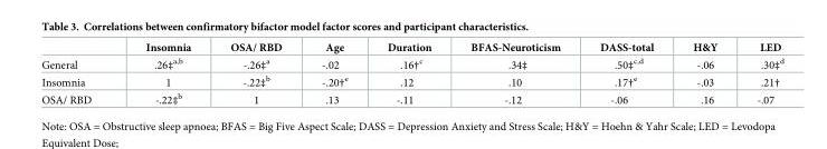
<table><thead><tr><td></td><td>Insomnia</td><td>OSA/ RBD</td><td>Age</td><td>Duration</td><td>BFAS-Neuroticism</td><td>DASS-total</td><td>H&amp;Y</td><td>LED</td></tr></thead><tbody><tr><td>General</td><td>.26‡<sup>a,b</sup></td><td>-.26‡<sup>a</sup></td><td>-.02</td><td>.16†<sup>c</sup></td><td>.34‡</td><td>.50‡<sup>c,d</sup></td><td>-.06</td><td>.30‡<sup>d</sup></td></tr><tr><td>Insomnia</td><td>1</td><td>-.22‡<sup>b</sup></td><td>-.20†<sup>e</sup></td><td>.12</td><td>.10</td><td>.17†<sup>e</sup></td><td>-.03</td><td>.21†</td></tr><tr><td>OSA/ RBD</td><td>-.22‡<sup>b</sup></td><td>1</td><td>.13</td><td>-.11</td><td>-.12</td><td>-.06</td><td>.16</td><td>-.07</td></tr></tbody></table>